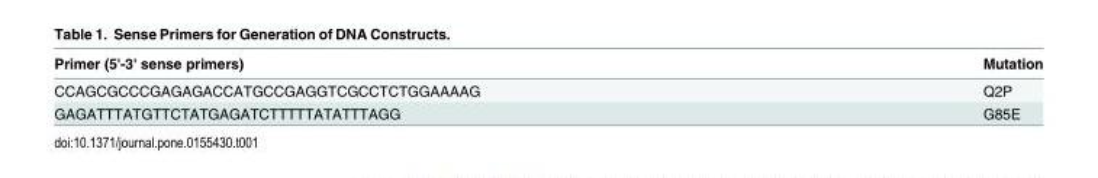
<table><thead><tr><td>Primer (5&#x27;-3&#x27; sense primers)</td><td>Mutation</td></tr></thead><tbody><tr><td>CCAGCGCCCGAGAGACCATGCCGAGGTCGCCTCTGGAAAAG</td><td>Q2P</td></tr><tr><td>GAGATTTATGTTCTATGAGATCTTTTTATATTTAGG</td><td>G85E</td></tr></tbody></table>